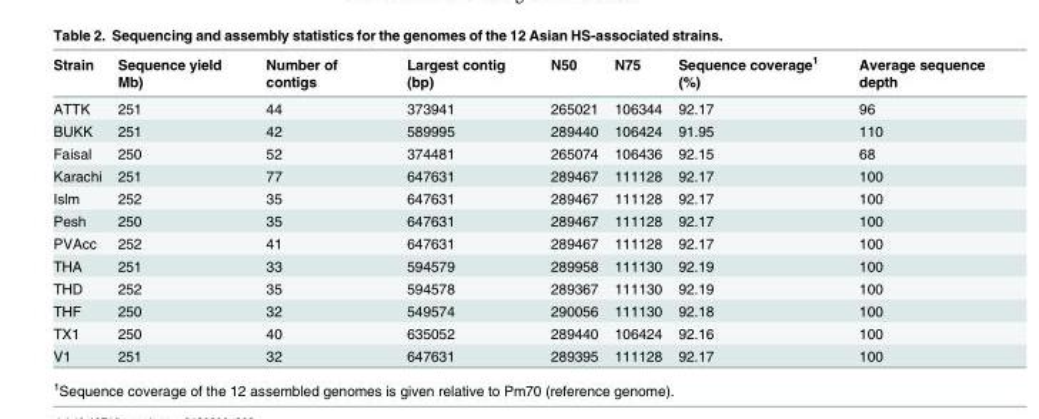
<table><thead><tr><td>Strain</td><td>Sequence yield Mb)</td><td>Number of contigs</td><td>Largest contig (bp)</td><td>N50</td><td>N75</td><td>Sequence coverage<sup>1</sup> (%)</td><td>Average sequence depth</td></tr></thead><tbody><tr><td>ATTK</td><td>251</td><td>44</td><td>373941</td><td>265021</td><td>106344</td><td>92.17</td><td>96</td></tr><tr><td>BUKK</td><td>251</td><td>42</td><td>589995</td><td>289440</td><td>106424</td><td>91.95</td><td>110</td></tr><tr><td>Faisal</td><td>250</td><td>52</td><td>374481</td><td>265074</td><td>106436</td><td>92.15</td><td>68</td></tr><tr><td>Karachi</td><td>251</td><td>77</td><td>647631</td><td>289467</td><td>111128</td><td>92.17</td><td>100</td></tr><tr><td>Islm</td><td>252</td><td>35</td><td>647631</td><td>289467</td><td>111128</td><td>92.17</td><td>100</td></tr><tr><td>Pesh</td><td>250</td><td>35</td><td>647631</td><td>289467</td><td>111128</td><td>92.17</td><td>100</td></tr><tr><td>PVAcc</td><td>252</td><td>41</td><td>647631</td><td>289467</td><td>111128</td><td>92.17</td><td>100</td></tr><tr><td>THA</td><td>251</td><td>33</td><td>594579</td><td>289958</td><td>111130</td><td>92.19</td><td>100</td></tr><tr><td>THD</td><td>252</td><td>35</td><td>594578</td><td>289367</td><td>111130</td><td>92.19</td><td>100</td></tr><tr><td>THF</td><td>250</td><td>32</td><td>549574</td><td>290056</td><td>111130</td><td>92.18</td><td>100</td></tr><tr><td>TX1</td><td>250</td><td>40</td><td>635052</td><td>289440</td><td>106424</td><td>92.16</td><td>100</td></tr><tr><td>V1</td><td>251</td><td>32</td><td>647631</td><td>289395</td><td>111128</td><td>92.17</td><td>100</td></tr></tbody></table>